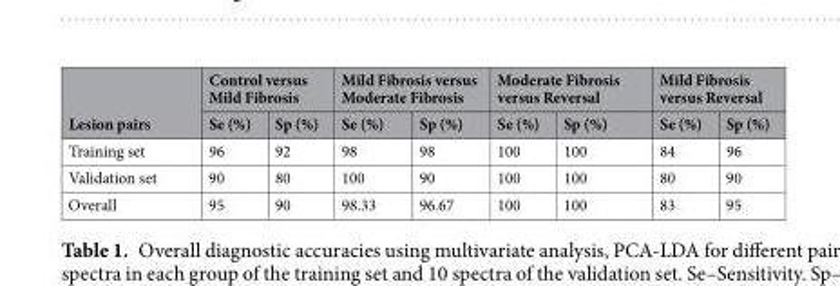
<table><thead><tr><td rowspan="2">Lesion pairs</td><td colspan="2">Control versus Mild Fibrosis</td><td colspan="2">Mild Fibrosis versus Moderate Fibrosis</td><td colspan="2">Moderate Fibrosis versus Reversal</td><td colspan="2">Mild Fibrosis versus Reversal</td></tr><tr><td>Se (%)</td><td>Sp (%)</td><td>Se (%)</td><td>Sp (%)</td><td>Se (%)</td><td>Sp (%)</td><td>Se (%)</td><td>Sp (%)</td></tr></thead><tbody><tr><td>Training set</td><td>96</td><td>92</td><td>98</td><td>98</td><td>100</td><td>100</td><td>84</td><td>96</td></tr><tr><td>Validation set</td><td>90</td><td>80</td><td>100</td><td>90</td><td>100</td><td>100</td><td>80</td><td>90</td></tr><tr><td>Overall</td><td>95</td><td>90</td><td>98.33</td><td>96.67</td><td>100</td><td>100</td><td>83</td><td>95</td></tr></tbody></table>